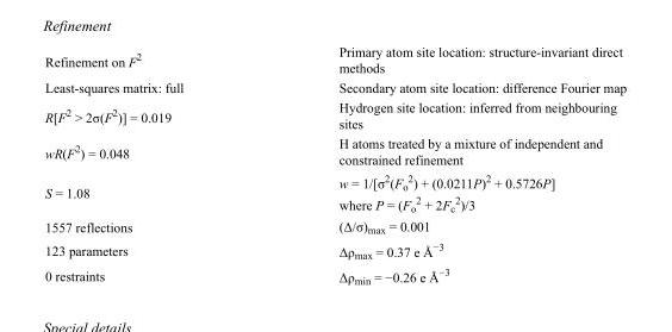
<table><tbody><tr><td>Refinement on F<sup>2</sup></td><td>Primary atom site location: structure-invariant direct methods</td></tr><tr><td>Least-squares matrix: full</td><td>Secondary atom site location: difference Fourier map</td></tr><tr><td>R[F<sup>2</sup> &gt; 2σ(F<sup>2</sup>)] = 0.019</td><td>Hydrogen site location: inferred from neighbouring sites</td></tr><tr><td>wR(F<sup>2</sup>) = 0.048</td><td>H atoms treated by a mixture of independent and constrained refinement</td></tr><tr><td>S = 1.08</td><td>w = 1/[σ<sup>2</sup>(F<sub>o</sub> <sup>2</sup>) + (0.0211P)<sup>2</sup> + 0.5726P] where P = (F<sub>o</sub> <sup>2</sup> + 2F<sub>c</sub> <sup>2</sup>)/3</td></tr><tr><td>1557 reflections</td><td>(Δ/σ)<sub>max</sub> = 0.001</td></tr><tr><td>123 parameters</td><td>Δρ<sub>max</sub> = 0.37 e Å<sup>−3</sup></td></tr><tr><td>0 restraints</td><td>Δρ<sub>min</sub> = −0.26 e Å<sup>−3</sup></td></tr></tbody></table>